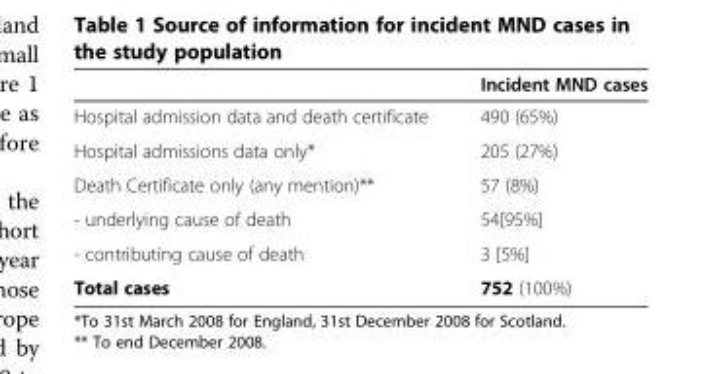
<table><thead><tr><td></td><td>Incident MND cases</td></tr></thead><tbody><tr><td>Hospital admission data and death certificate</td><td>490 (65%)</td></tr><tr><td>Hospital admissions data only*</td><td>205 (27%)</td></tr><tr><td>Death Certificate only (any mention)**</td><td>57 (8%)</td></tr><tr><td>- underlying cause of death</td><td>54[95%]</td></tr><tr><td>- contributing cause of death</td><td>3 [5%]</td></tr><tr><td>Total cases</td><td>752 (100%)</td></tr></tbody></table>